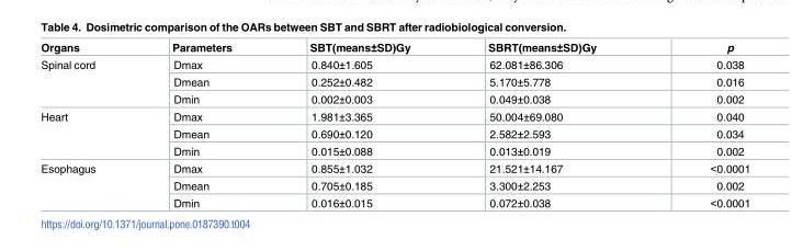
<table><thead><tr><td>Organs</td><td>Parameters</td><td>SBT(means±SD)Gy</td><td>SBRT(means±SD)Gy</td><td>p</td></tr></thead><tbody><tr><td rowspan="3">Spinal cord</td><td>Dmax</td><td>0.840±1.605</td><td>62.081±86.306</td><td>0.038</td></tr><tr><td>Dmean</td><td>0.252±0.482</td><td>5.170±5.778</td><td>0.016</td></tr><tr><td>Dmin</td><td>0.002±0.003</td><td>0.049±0.038</td><td>0.002</td></tr><tr><td rowspan="3">Heart</td><td>Dmax</td><td>1.981±3.365</td><td>50.004±69.080</td><td>0.040</td></tr><tr><td>Dmean</td><td>0.690±0.120</td><td>2.582±2.593</td><td>0.034</td></tr><tr><td>Dmin</td><td>0.015±0.088</td><td>0.013±0.019</td><td>0.002</td></tr><tr><td rowspan="3">Esophagus</td><td>Dmax</td><td>0.855±1.032</td><td>21.521±14.167</td><td>&lt;0.0001</td></tr><tr><td>Dmean</td><td>0.705±0.185</td><td>3.300±2.253</td><td>0.002</td></tr><tr><td>Dmin</td><td>0.016±0.015</td><td>0.072±0.038</td><td>&lt;0.0001</td></tr></tbody></table>